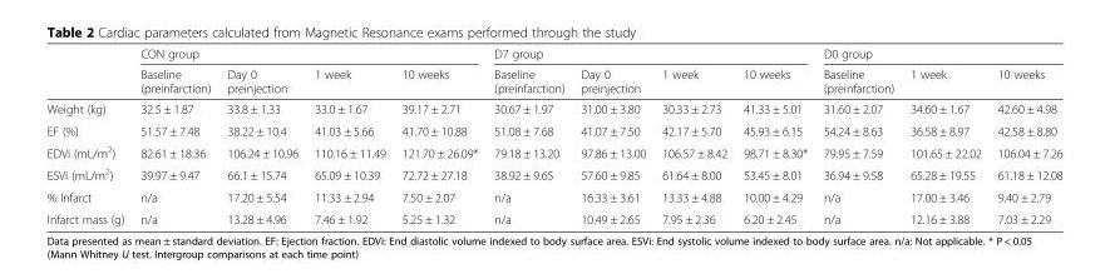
<table><thead><tr><td rowspan="2"></td><td colspan="4">CON group</td><td colspan="4">D7 group</td><td colspan="3">D0 group</td></tr><tr><td>Baseline (preinfarction)</td><td>Day 0 preinjection</td><td>1 week</td><td>10 weeks</td><td>Baseline (preinfarction)</td><td>Day 0 preinjection</td><td>1 week</td><td>10 weeks</td><td>Baseline (preinfarction)</td><td>1 week</td><td>10 weeks</td></tr></thead><tbody><tr><td>Weight (kg)</td><td>32.5 ± 1.87</td><td>33.8 ± 1.33</td><td>33.0 ± 1.67</td><td>39.17 ± 2.71</td><td>30.67 ± 1.97</td><td>31.00 ± 3.80</td><td>30.33 ± 2.73</td><td>41.33 ± 5.01</td><td>31.60 ± 2.07</td><td>34.60 ± 1.67</td><td>42.60 ± 4.98</td></tr><tr><td>EF (%)</td><td>51.57 ± 7.48</td><td>38.22 ± 10.4</td><td>41.03 ± 5.66</td><td>41.70 ± 10.88</td><td>51.08 ± 7.68</td><td>41.07 ± 7.50</td><td>42.17 ± 5.70</td><td>45.93 ± 6.15</td><td>54.24 ± 8.63</td><td>36.58 ± 8.97</td><td>42.58 ± 8.80</td></tr><tr><td>EDVi (mL/m<sup>2</sup>)</td><td>82.61 ± 18.36</td><td>106.24 ± 10.96</td><td>110.16 ± 11.49</td><td>121.70 ± 26.09*</td><td>79.18 ± 13.20</td><td>97.86 ± 13.00</td><td>106.57 ± 8.42</td><td>98.71 ± 8.30*</td><td>79.95 ± 7.59</td><td>101.65 ± 22.02</td><td>106.04 ± 7.26</td></tr><tr><td>ESVi (mL/m<sup>2</sup>)</td><td>39.97 ± 9.47</td><td>66.1 ± 15.74</td><td>65.09 ± 10.39</td><td>72.72 ± 27.18</td><td>38.92 ± 9.65</td><td>57.60 ± 9.85</td><td>61.64 ± 8.00</td><td>53.45 ± 8.01</td><td>36.94 ± 9.58</td><td>65.28 ± 19.55</td><td>61.18 ± 12.08</td></tr><tr><td>% Infarct</td><td>n/a</td><td>17.20 ± 5.54</td><td>11.33 ± 2.94</td><td>7.50 ± 2.07</td><td>n/a</td><td>16.33 ± 3.61</td><td>13.33 ± 4.88</td><td>10.00 ± 4.29</td><td>n/a</td><td>17.00 ± 3.46</td><td>9.40 ± 2.79</td></tr><tr><td>Infarct mass (g)</td><td>n/a</td><td>13.28 ± 4.96</td><td>7.46 ± 1.92</td><td>5.25 ± 1.32</td><td>n/a</td><td>10.49 ± 2.65</td><td>7.95 ± 2.36</td><td>6.20 ± 2.45</td><td>n/a</td><td>12.16 ± 3.88</td><td>7.03 ± 2.29</td></tr></tbody></table>